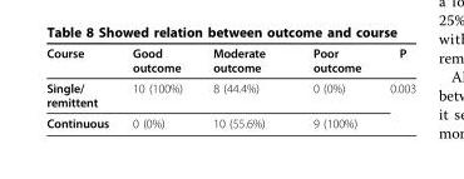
<table><thead><tr><td>Course</td><td>Good outcome</td><td>Moderate outcome</td><td>Poor outcome</td><td>P</td></tr></thead><tbody><tr><td>Single/ remittent</td><td>10 (100%)</td><td>8 (44.4%)</td><td>0 (0%)</td><td>0.003</td></tr><tr><td>Continuous</td><td>0 (0%)</td><td>10 (55.6%)</td><td>9 (100%)</td><td></td></tr></tbody></table>